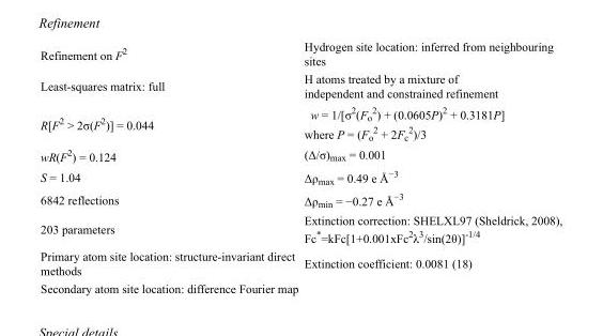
<table><tbody><tr><td>Refinement on F<sup>2</sup></td><td>Hydrogen site location: inferred from neighbouring sites</td></tr><tr><td>Least-squares matrix: full</td><td>H atoms treated by a mixture of independent and constrained refinement</td></tr><tr><td>R[F<sup>2</sup> &gt; 2σ(F<sup>2</sup>)] = 0.044</td><td>w = 1/[σ<sup>2</sup>(F<sub>o</sub> <sup>2</sup>) + (0.0605P)<sup>2</sup> + 0.3181P] where P = (F<sub>o</sub> <sup>2</sup> + 2F<sub>c</sub> <sup>2</sup>)/3</td></tr><tr><td>wR(F<sup>2</sup>) = 0.124</td><td>(Δ/σ)<sub>max</sub> = 0.001</td></tr><tr><td>S = 1.04</td><td>Δρ<sub>max</sub> = 0.49 e Å<sup>−3</sup></td></tr><tr><td>6842 reflections</td><td>Δρ<sub>min</sub> = −0.27 e Å<sup>−3</sup></td></tr><tr><td>203 parameters</td><td>Extinction correction: SHELXL97 (Sheldrick, 2008), Fc*=kFc[1+0.001xFc<sup>2</sup>λ<sup>3</sup>/sin(2θ)]<sup>-1/4</sup></td></tr><tr><td>Primary atom site location: structure-invariant direct methods</td><td>Extinction coefficient: 0.0081 (18)</td></tr><tr><td>Secondary atom site location: difference Fourier map</td><td></td></tr></tbody></table>